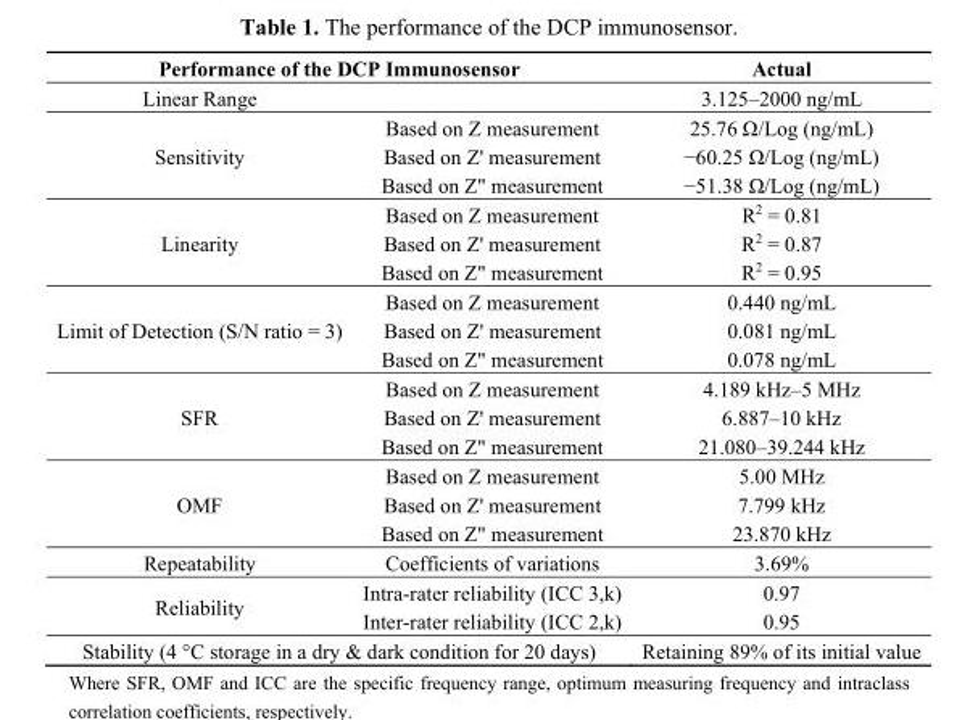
<table><thead><tr><td colspan="2">Performance of the DCP Immunosensor</td><td rowspan="2">Actual 3.125–2000 ng/mL</td></tr><tr><td>Linear Range</td><td></td></tr></thead><tbody><tr><td rowspan="3">Sensitivity</td><td>Based on Z measurement</td><td>25.76 Ω/Log (ng/mL)</td></tr><tr><td>Based on Z&#x27; measurement</td><td>−60.25 Ω/Log (ng/mL)</td></tr><tr><td>Based on Z&quot; measurement</td><td>−51.38 Ω/Log (ng/mL)</td></tr><tr><td rowspan="3">Linearity</td><td>Based on Z measurement</td><td>R<sup>2</sup> = 0.81</td></tr><tr><td>Based on Z&#x27; measurement</td><td>R<sup>2</sup> = 0.87</td></tr><tr><td>Based on Z&quot; measurement</td><td>R<sup>2</sup> = 0.95</td></tr><tr><td rowspan="3">Limit of Detection (S/N ratio = 3)</td><td>Based on Z measurement</td><td>0.440 ng/mL</td></tr><tr><td>Based on Z&#x27; measurement</td><td>0.081 ng/mL</td></tr><tr><td>Based on Z&quot; measurement</td><td>0.078 ng/mL</td></tr><tr><td rowspan="3">SFR</td><td>Based on Z measurement</td><td>4.189 kHz–5 MHz</td></tr><tr><td>Based on Z&#x27; measurement</td><td>6.887–10 kHz</td></tr><tr><td>Based on Z&quot; measurement</td><td>21.080–39.244 kHz</td></tr><tr><td rowspan="3">OMF</td><td>Based on Z measurement</td><td>5.00 MHz</td></tr><tr><td>Based on Z&#x27; measurement</td><td>7.799 kHz</td></tr><tr><td>Based on Z&quot; measurement</td><td>23.870 kHz</td></tr><tr><td>Repeatability</td><td>Coefficients of variations</td><td>3.69%</td></tr><tr><td rowspan="2">Reliability</td><td>Intra-rater reliability (ICC 3,k)</td><td>0.97</td></tr><tr><td>Inter-rater reliability (ICC 2,k)</td><td>0.95</td></tr><tr><td colspan="2">Stability (4 °C storage in a dry &amp; dark condition for 20 days)</td><td>Retaining 89% of its initial value</td></tr></tbody></table>